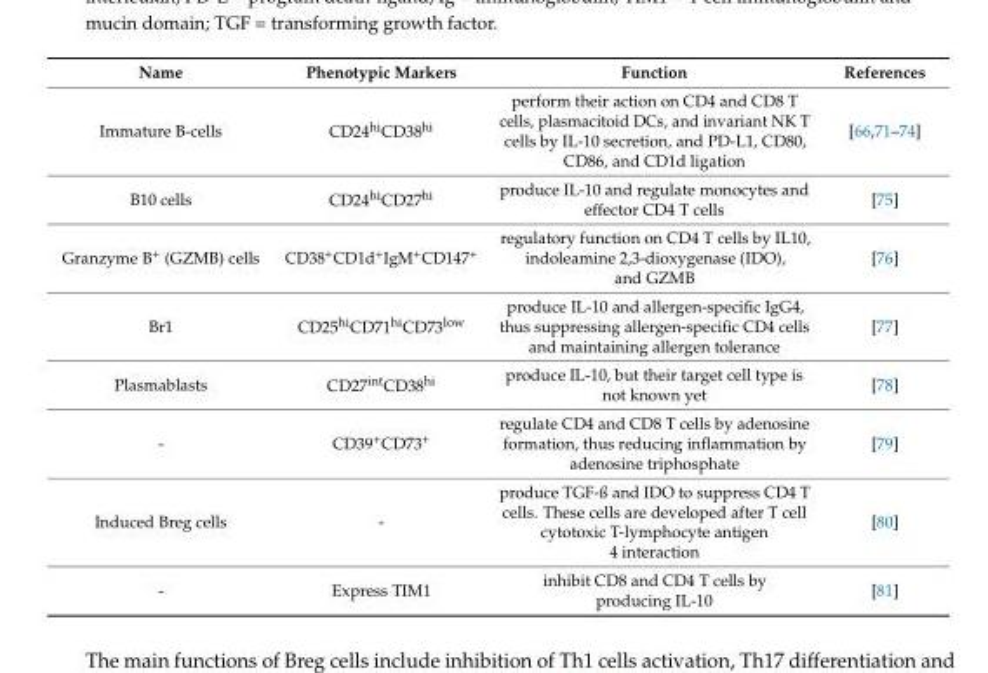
<table><thead><tr><td>Name</td><td>Phenotypic Markers</td><td>Function</td><td>References</td></tr></thead><tbody><tr><td>Immature B-cells</td><td>CD24<sup>hi</sup>CD38<sup>hi</sup></td><td>perform their action on CD4 and CD8 T cells, plasmacitoid DCs, and invariant NK T cells by IL-10 secretion, and PD-L1, CD80, CD86, and CD1d ligation</td><td>[66,71–74]</td></tr><tr><td>B10 cells</td><td>CD24<sup>hi</sup>CD27<sup>hi</sup></td><td>produce IL-10 and regulate monocytes and effector CD4 T cells</td><td>[75]</td></tr><tr><td>Granzyme B<sup>+</sup> (GZMB) cells</td><td>CD38<sup>+</sup>CD1d<sup>+</sup>IgM<sup>+</sup>CD147<sup>+</sup></td><td>regulatory function on CD4 T cells by IL10, indoleamine 2,3-dioxygenase (IDO), and GZMB</td><td>[76]</td></tr><tr><td>Br1</td><td>CD25<sup>hi</sup>CD71<sup>hi</sup>CD73<sup>low</sup></td><td>produce IL-10 and allergen-specific IgG4, thus suppressing allergen-specific CD4 cells and maintaining allergen tolerance</td><td>[77]</td></tr><tr><td>Plasmablasts</td><td>CD27<sup>int</sup>CD38<sup>hi</sup></td><td>produce IL-10, but their target cell type is not known yet</td><td>[78]</td></tr><tr><td>-</td><td>CD39<sup>+</sup>CD73<sup>+</sup></td><td>regulate CD4 and CD8 T cells by adenosine formation, thus reducing inflammation by adenosine triphosphate</td><td>[79]</td></tr><tr><td>Induced Breg cells</td><td>-</td><td>produce TGF-ß and IDO to suppress CD4 T cells. These cells are developed after T cell cytotoxic T-lymphocyte antigen 4 interaction</td><td>[80]</td></tr><tr><td>-</td><td>Express TIM1</td><td>inhibit CD8 and CD4 T cells by producing IL-10</td><td>[81]</td></tr></tbody></table>